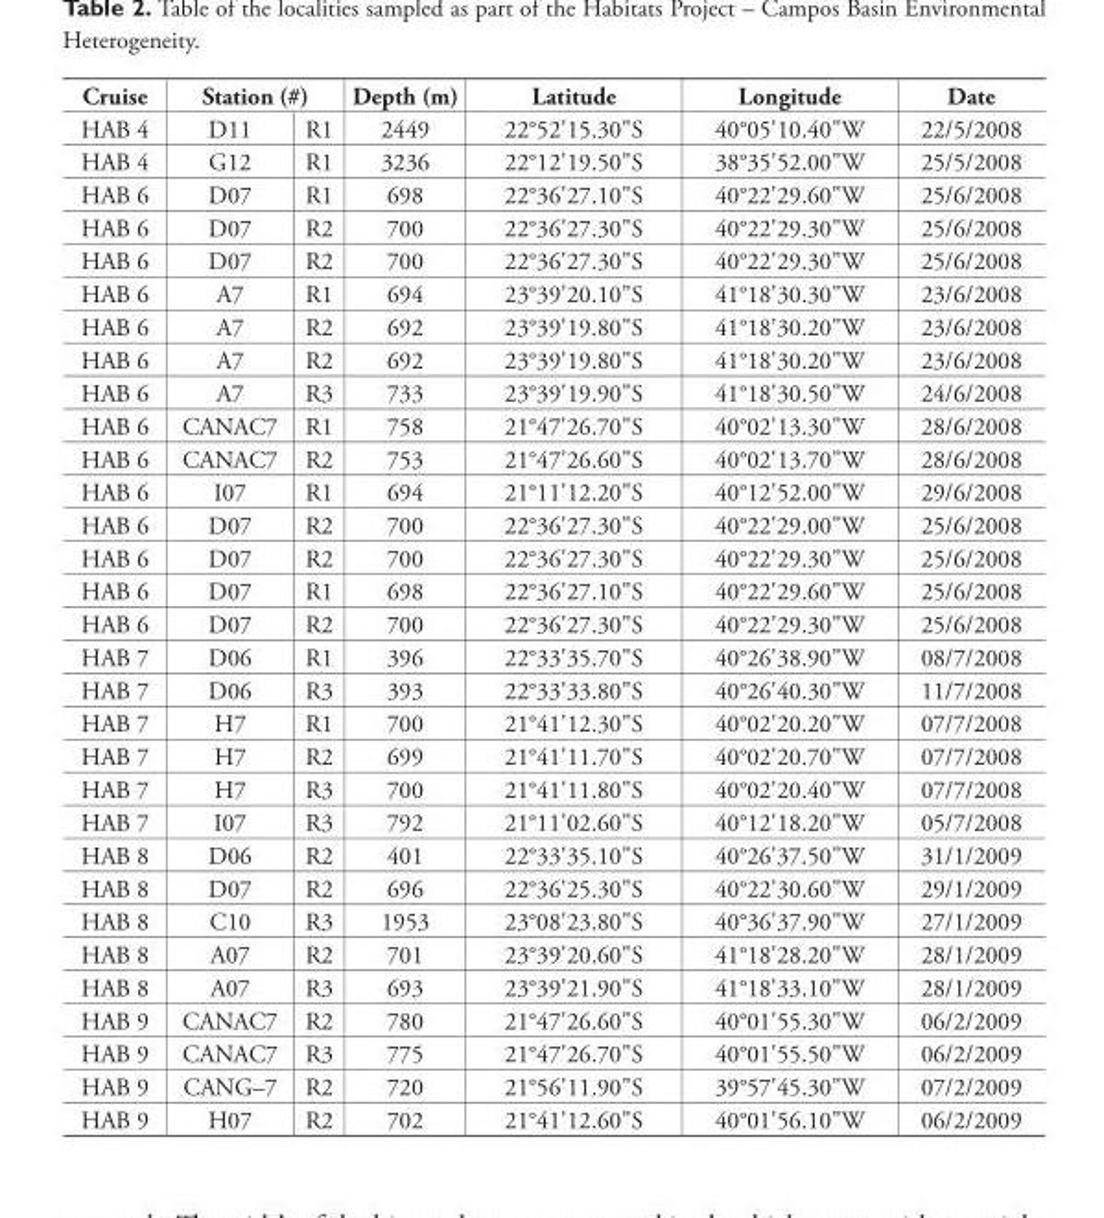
<table><thead><tr><td rowspan="2">Cruise HAB 4</td><td colspan="2">Station (#)</td><td rowspan="2">Depth (m) 2449</td><td rowspan="2">Latitude Longitude 22°52&#x27;15.30&quot;S 40°05&#x27;10.40&quot;W</td><td rowspan="2">Date 22/5/2008</td></tr><tr><td>D11</td><td>R1</td></tr></thead><tbody><tr><td>HAB 4</td><td>G12</td><td>R1</td><td>3236</td><td>22°12&#x27;19.50&quot;S 38°35&#x27;52.00&quot;W</td><td>25/5/2008</td></tr><tr><td>HAB 6</td><td>D07</td><td>R1</td><td>698</td><td>22°36&#x27;27.10&quot;S 40°22&#x27;29.60&quot;W</td><td>25/6/2008</td></tr><tr><td>HAB 6</td><td>D07</td><td>R2</td><td>700</td><td>22°36&#x27;27.30&quot;S 40°22&#x27;29.30&quot;W</td><td>25/6/2008</td></tr><tr><td>HAB 6</td><td>D07</td><td>R2</td><td>700</td><td>22°36&#x27;27.30&quot;S 40°22&#x27;29.30&quot;W</td><td>25/6/2008</td></tr><tr><td>HAB 6</td><td>A7</td><td>R1</td><td>694</td><td>23°39&#x27;20.10&quot;S 41°18&#x27;30.30&quot;W</td><td>23/6/2008</td></tr><tr><td>HAB 6</td><td>A7</td><td>R2</td><td>692</td><td>23°39&#x27;19.80&quot;S 41°18&#x27;30.20&quot;W</td><td>23/6/2008</td></tr><tr><td>HAB 6</td><td>A7</td><td>R2</td><td>692</td><td>23°39&#x27;19.80&quot;S 41°18&#x27;30.20&quot;W</td><td>23/6/2008</td></tr><tr><td>HAB 6</td><td>A7</td><td>R3</td><td>733</td><td>23°39&#x27;19.90&quot;S 41°18&#x27;30.50&quot;W</td><td>24/6/2008</td></tr><tr><td>HAB 6</td><td>CANAC7</td><td>R1</td><td>758</td><td>21°47&#x27;26.70&quot;S 40°02&#x27;13.30&quot;W</td><td>28/6/2008</td></tr><tr><td>HAB 6</td><td>CANAC7</td><td>R2</td><td>753</td><td>21°47&#x27;26.60&quot;S 40°02&#x27;13.70&quot;W</td><td>28/6/2008</td></tr><tr><td>HAB 6</td><td>I07</td><td>R1</td><td>694</td><td>21°11&#x27;12.20&quot;S 40°12&#x27;52.00&quot;W</td><td>29/6/2008</td></tr><tr><td>HAB 6</td><td>D07</td><td>R2</td><td>700</td><td>22°36&#x27;27.30&quot;S 40°22&#x27;29.00&quot;W</td><td>25/6/2008</td></tr><tr><td>HAB 6</td><td>D07</td><td>R2</td><td>700</td><td>22°36&#x27;27.30&quot;S 40°22&#x27;29.30&quot;W</td><td>25/6/2008</td></tr><tr><td>HAB 6</td><td>D07</td><td>R1</td><td>698</td><td>22°36&#x27;27.10&quot;S 40°22&#x27;29.60&quot;W</td><td>25/6/2008</td></tr><tr><td>HAB 6</td><td>D07</td><td>R2</td><td>700</td><td>22°36&#x27;27.30&quot;S 40°22&#x27;29.30&quot;W</td><td>25/6/2008</td></tr><tr><td>HAB 7</td><td>D06</td><td>R1</td><td>396</td><td>22°33&#x27;35.70&quot;S 40°26&#x27;38.90&quot;W</td><td>08/7/2008</td></tr><tr><td>HAB 7</td><td>D06</td><td>R3</td><td>393</td><td>22°33&#x27;33.80&quot;S 40°26&#x27;40.30&quot;W</td><td>11/7/2008</td></tr><tr><td>HAB 7</td><td>H7</td><td>R1</td><td>700</td><td>21°41&#x27;12.30&quot;S 40°02&#x27;20.20&quot;W</td><td>07/7/2008</td></tr><tr><td>HAB 7</td><td>H7</td><td>R2</td><td>699</td><td>21°41&#x27;11.70&quot;S 40°02&#x27;20.70&quot;W</td><td>07/7/2008</td></tr><tr><td>HAB 7</td><td>H7</td><td>R3</td><td>700</td><td>21°41&#x27;11.80&quot;S 40°02&#x27;20.40&quot;W</td><td>07/7/2008</td></tr><tr><td>HAB 7</td><td>I07</td><td>R3</td><td>792</td><td>21°11&#x27;02.60&quot;S 40°12&#x27;18.20&quot;W</td><td>05/7/2008</td></tr><tr><td>HAB 8</td><td>D06</td><td>R2</td><td>401</td><td>22°33&#x27;35.10&quot;S 40°26&#x27;37.50&quot;W</td><td>31/1/2009</td></tr><tr><td>HAB 8</td><td>D07</td><td>R2</td><td>696</td><td>22°36&#x27;25.30&quot;S 40°22&#x27;30.60&quot;W</td><td>29/1/2009</td></tr><tr><td>HAB 8</td><td>C10</td><td>R3</td><td>1953</td><td>23°08&#x27;23.80&quot;S 40°36&#x27;37.90&quot;W</td><td>27/1/2009</td></tr><tr><td>HAB 8</td><td>A07</td><td>R2</td><td>701</td><td>23°39&#x27;20.60&quot;S 41°18&#x27;28.20&quot;W</td><td>28/1/2009</td></tr><tr><td>HAB 8</td><td>A07</td><td>R3</td><td>693</td><td>23°39&#x27;21.90&quot;S 41°18&#x27;33.10&quot;W</td><td>28/1/2009</td></tr><tr><td>HAB 9</td><td>CANAC7</td><td>R2</td><td>780</td><td>21°47&#x27;26.60&quot;S 40°01&#x27;55.30&quot;W</td><td>06/2/2009</td></tr><tr><td>HAB 9</td><td>CANAC7</td><td>R3</td><td>775</td><td>21°47&#x27;26.70&quot;S 40°01&#x27;55.50&quot;W</td><td>06/2/2009</td></tr><tr><td>HAB 9</td><td>CANG–7</td><td>R2</td><td>720</td><td>21°56&#x27;11.90&quot;S 39°57&#x27;45.30&quot;W</td><td>07/2/2009</td></tr><tr><td>HAB 9</td><td>H07</td><td>R2</td><td>702</td><td>21°41&#x27;12.60&quot;S 40°01&#x27;56.10&quot;W</td><td>06/2/2009</td></tr></tbody></table>